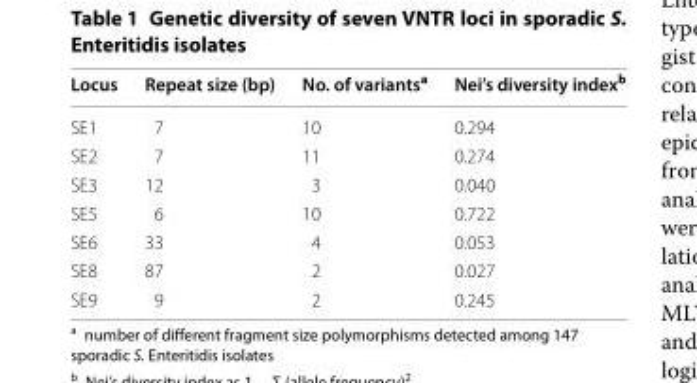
<table><thead><tr><td>Locus</td><td>Repeat size (bp)</td><td>No. of variants<sup>a</sup></td><td>Nei’s diversity index<sup>b</sup></td></tr></thead><tbody><tr><td>SE1</td><td>7</td><td>10</td><td>0.294</td></tr><tr><td>SE2</td><td>7</td><td>11</td><td>0.274</td></tr><tr><td>SE3</td><td>12</td><td>3</td><td>0.040</td></tr><tr><td>SE5</td><td>6</td><td>10</td><td>0.722</td></tr><tr><td>SE6</td><td>33</td><td>4</td><td>0.053</td></tr><tr><td>SE8</td><td>87</td><td>2</td><td>0.027</td></tr><tr><td>SE9</td><td>9</td><td>2</td><td>0.245</td></tr></tbody></table>